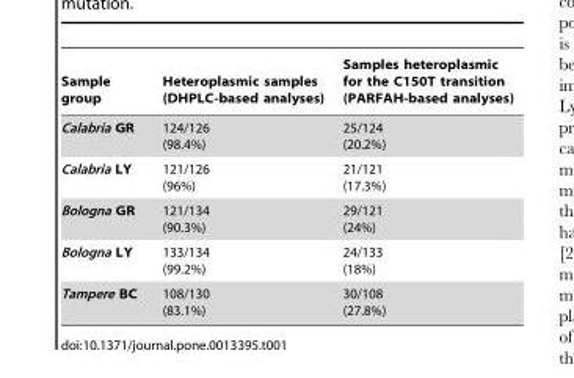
<table><thead><tr><td>Sample group</td><td>Heteroplasmic samples (DHPLC-based analyses)</td><td>Samples heteroplasmic for the C150T transition (PARFAH-based analyses)</td></tr></thead><tbody><tr><td>Calabria GR</td><td>124/126 (98.4%)</td><td>25/124 (20.2%)</td></tr><tr><td>Calabria LY</td><td>121/126 (96%)</td><td>21/121 (17.3%)</td></tr><tr><td>Bologna GR</td><td>121/134 (90.3%)</td><td>29/121 (24%)</td></tr><tr><td>Bologna LY</td><td>133/134 (99.2%)</td><td>24/133 (18%)</td></tr><tr><td>Tampere BC</td><td>108/130 (83.1%)</td><td>30/108 (27.8%)</td></tr></tbody></table>